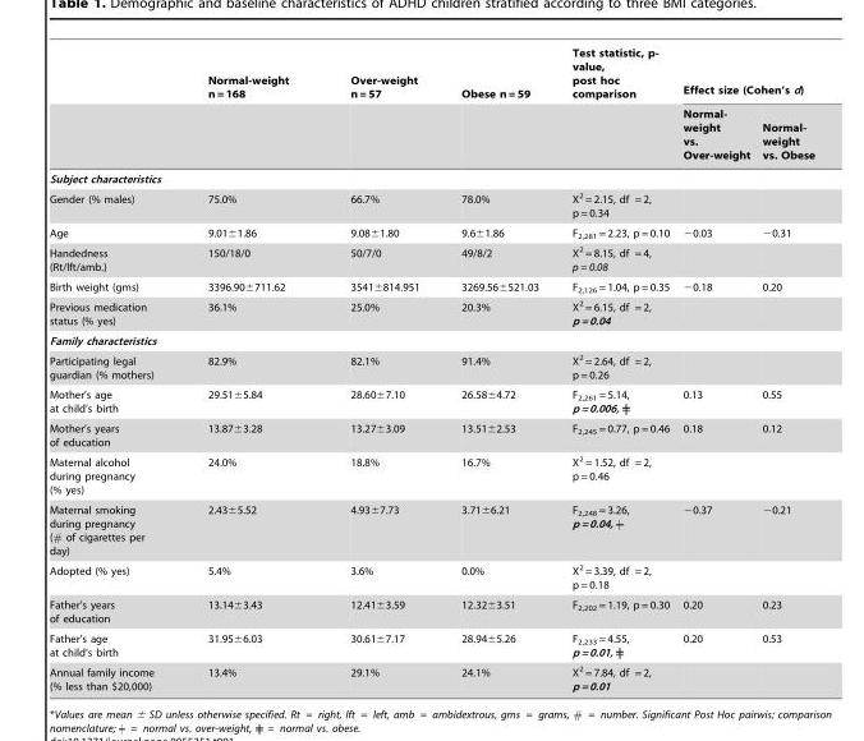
<table><thead><tr><td rowspan="2"></td><td rowspan="2">Normal-weight n = 168</td><td rowspan="2">Over-weight n = 57</td><td rowspan="2">Obese n = 59</td><td rowspan="2">Test statistic, p- value, post hoc comparison</td><td colspan="2">Effect size (Cohen’s d)</td></tr><tr><td>Normal- weight vs. Over-weight</td><td>Normal- weight vs. Obese</td></tr></thead><tbody><tr><td colspan="7">Subject characteristics</td></tr><tr><td>Gender (% males)</td><td>75.0%</td><td>66.7%</td><td>78.0%</td><td>X<sup>2</sup> = 2.15, df = 2, p = 0.34</td><td></td><td></td></tr><tr><td>Age</td><td>9.01±1.86</td><td>9.08±1.80</td><td>9.6±1.86</td><td>F<sub>2,281</sub> = 2.23, p = 0.10</td><td>−0.03</td><td>−0.31</td></tr><tr><td>Handedness (Rt/lft/amb.)</td><td>150/18/0</td><td>50/7/0</td><td>49/8/2</td><td>X<sup>2</sup> = 8.15, df = 4, p = 0.08</td><td></td><td></td></tr><tr><td>Birth weight (gms)</td><td>3396.90±711.62</td><td>3541±814.951</td><td>3269.56±521.03</td><td>F<sub>2,126</sub> = 1.04, p = 0.35</td><td>−0.18</td><td>0.20</td></tr><tr><td>Previous medication status (% yes)</td><td>36.1%</td><td>25.0%</td><td>20.3%</td><td>X<sup>2</sup> = 6.15, df = 2, p = 0.04</td><td></td><td></td></tr><tr><td colspan="7">Family characteristics</td></tr><tr><td>Participating legal guardian (% mothers)</td><td>82.9%</td><td>82.1%</td><td>91.4%</td><td>X<sup>2</sup> = 2.64, df = 2, p = 0.26</td><td></td><td></td></tr><tr><td>Mother’s age at child’s birth</td><td>29.51±5.84</td><td>28.60±7.10</td><td>26.58±4.72</td><td>F2,261 = 5.14, p = 0.006,</td><td>0.13</td><td>0.55</td></tr><tr><td>Mother’s years of education</td><td>13.87±3.28</td><td>13.27±3.09</td><td>13.51±2.53</td><td>F<sub>2,245</sub> = 0.77, p = 0.46</td><td>0.18</td><td>0.12</td></tr><tr><td>Maternal alcohol during pregnancy (% yes)</td><td>24.0%</td><td>18.8%</td><td>16.7%</td><td>X<sup>2</sup> = 1.52, df = 2, p = 0.46</td><td></td><td></td></tr><tr><td>Maternal smoking during pregnancy (# of cigarettes per day)</td><td>2.43±5.52</td><td>4.93±7.73</td><td>3.71±6.21</td><td>F2,248 = 3.26, p = 0.04,</td><td>−0.37</td><td>−0.21</td></tr><tr><td>Adopted (% yes)</td><td>5.4%</td><td>3.6%</td><td>0.0%</td><td>X<sup>2</sup> = 3.39, df = 2, p = 0.18</td><td></td><td></td></tr><tr><td>Father’s years of education</td><td>13.14±3.43</td><td>12.41±3.59</td><td>12.32±3.51</td><td>F<sub>2,202</sub> = 1.19, p = 0.30</td><td>0.20</td><td>0.23</td></tr><tr><td>Father’s age at child’s birth</td><td>31.95±6.03</td><td>30.61±7.17</td><td>28.94±5.26</td><td>F2,233 = 4.55, p = 0.01,</td><td>0.20</td><td>0.53</td></tr><tr><td>Annual family income (% less than $20,000)</td><td>13.4%</td><td>29.1%</td><td>24.1%</td><td>X<sup>2</sup> = 7.84, df = 2, p = 0.01</td><td></td><td></td></tr></tbody></table>